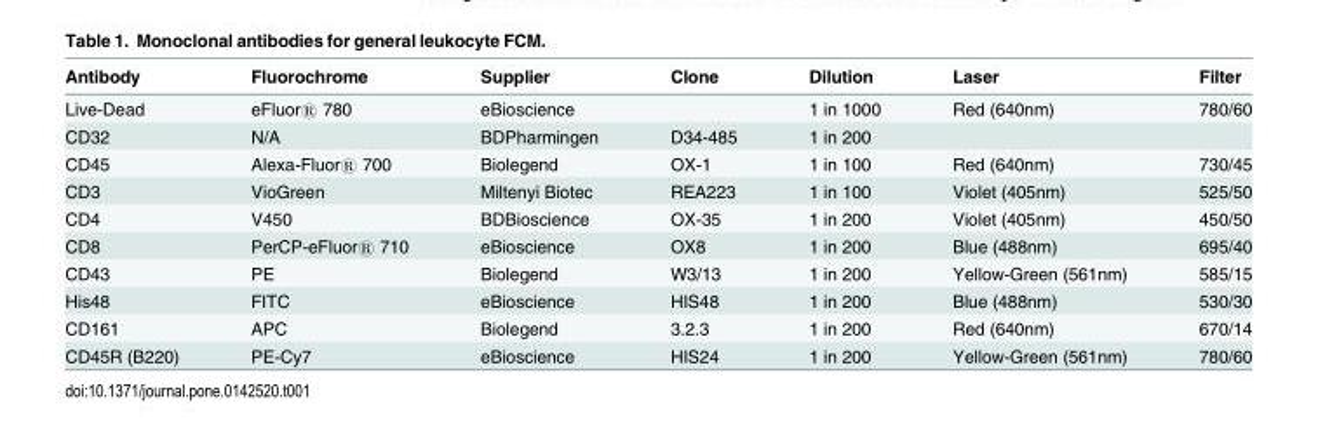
<table><thead><tr><td>Antibody</td><td>Fluorochrome</td><td>Supplier</td><td>Clone</td><td>Dilution</td><td>Laser</td><td>Filter</td></tr></thead><tbody><tr><td>Live-Dead</td><td>eFluor® 780</td><td colspan="2">eBioscience</td><td>1 in 1000</td><td>Red (640nm)</td><td>780/60</td></tr><tr><td>CD32</td><td>N/A</td><td>BDPharmingen</td><td>D34-485</td><td>1 in 200</td><td></td><td></td></tr><tr><td>CD45</td><td>Alexa-Fluor® 700</td><td>Biolegend</td><td>OX-1</td><td>1 in 100</td><td>Red (640nm)</td><td>730/45</td></tr><tr><td>CD3</td><td>VioGreen</td><td>Miltenyi Biotec</td><td>REA223</td><td>1 in 100</td><td>Violet (405nm)</td><td>525/50</td></tr><tr><td>CD4</td><td>V450</td><td>BDBioscience</td><td>OX-35</td><td>1 in 200</td><td>Violet (405nm)</td><td>450/50</td></tr><tr><td>CD8</td><td>PerCP-eFluor® 710</td><td>eBioscience</td><td>OX8</td><td>1 in 200</td><td>Blue (488nm)</td><td>695/40</td></tr><tr><td>CD43</td><td>PE</td><td>Biolegend</td><td>W3/13</td><td>1 in 200</td><td>Yellow-Green (561nm)</td><td>585/15</td></tr><tr><td>His48</td><td>FITC</td><td>eBioscience</td><td>HIS48</td><td>1 in 200</td><td>Blue (488nm)</td><td>530/30</td></tr><tr><td>CD161</td><td>APC</td><td>Biolegend</td><td>3.2.3</td><td>1 in 200</td><td>Red (640nm)</td><td>670/14</td></tr><tr><td>CD45R (B220)</td><td>PE-Cy7</td><td>eBioscience</td><td>HIS24</td><td>1 in 200</td><td>Yellow-Green (561nm)</td><td>780/60</td></tr></tbody></table>